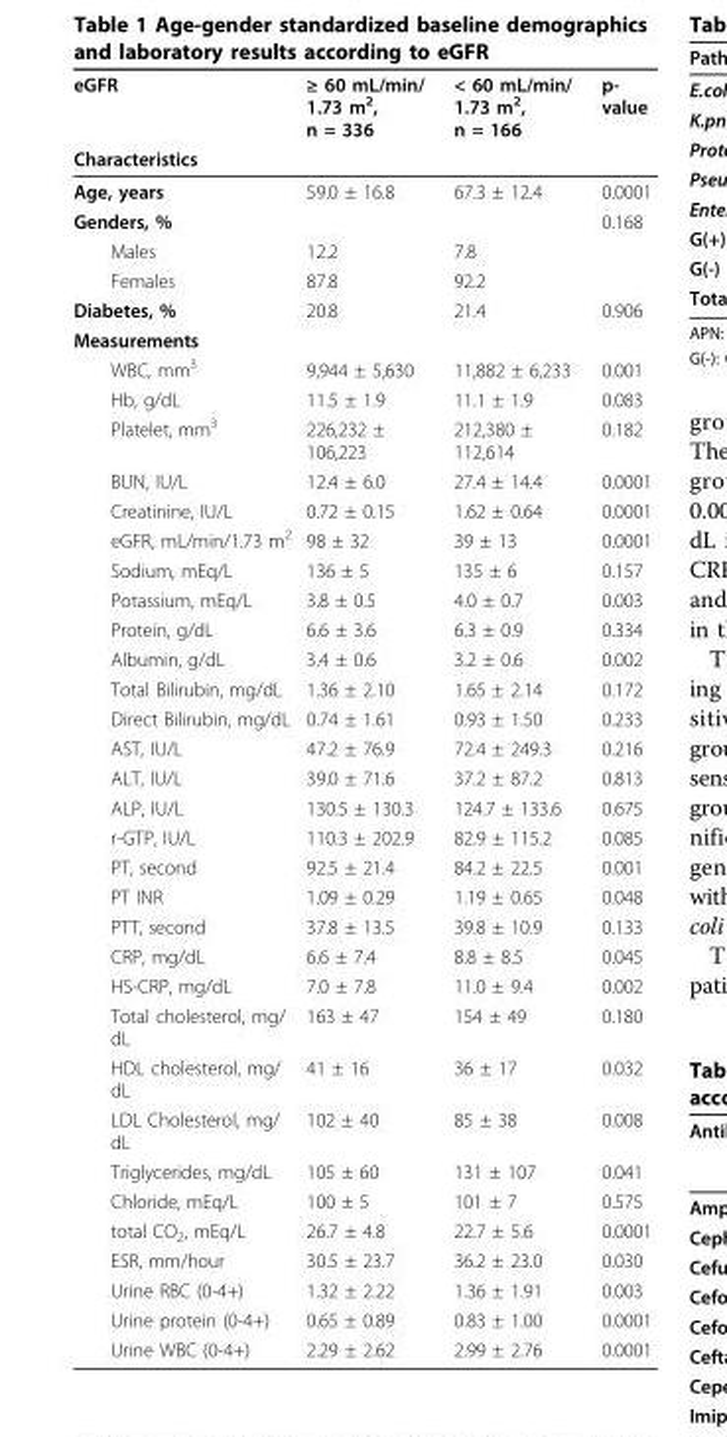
<table><thead><tr><td rowspan="2">eGFR Characteristics</td><td rowspan="2">≥ 60 mL/min/ 1.73 m<sup>2</sup>, n = 336</td><td rowspan="2">&lt; 60 mL/min/ 1.73 m<sup>2</sup>, n = 166</td><td rowspan="2">p- value</td></tr><tr></tr></thead><tbody><tr><td>Age, years</td><td>59.0 ± 16.8</td><td>67.3 ± 12.4</td><td>0.0001</td></tr><tr><td>Genders, %</td><td></td><td></td><td>0.168</td></tr><tr><td>Males</td><td>12.2</td><td>7.8</td><td></td></tr><tr><td>Females</td><td>87.8</td><td>92.2</td><td></td></tr><tr><td>Diabetes, %</td><td>20.8</td><td>21.4</td><td>0.906</td></tr><tr><td colspan="4">Measurements</td></tr><tr><td>WBC, mm<sup>3</sup></td><td>9,944 ± 5,630</td><td>11,882 ± 6,233</td><td>0.001</td></tr><tr><td>Hb, g/dL</td><td>11.5 ± 1.9</td><td>11.1 ± 1.9</td><td>0.083</td></tr><tr><td>Platelet, mm<sup>3</sup></td><td>226,232 ± 106,223</td><td>212,380 ± 112,614</td><td>0.182</td></tr><tr><td>BUN, IU/L</td><td>12.4 ± 6.0</td><td>27.4 ± 14.4</td><td>0.0001</td></tr><tr><td>Creatinine, IU/L</td><td>0.72 ± 0.15</td><td>1.62 ± 0.64</td><td>0.0001</td></tr><tr><td>eGFR, mL/min/1.73 m<sup>2</sup></td><td>98 ± 32</td><td>39 ± 13</td><td>0.0001</td></tr><tr><td>Sodium, mEq/L</td><td>136 ± 5</td><td>135 ± 6</td><td>0.157</td></tr><tr><td>Potassium, mEq/L</td><td>3.8 ± 0.5</td><td>4.0 ± 0.7</td><td>0.003</td></tr><tr><td>Protein, g/dL</td><td>6.6 ± 3.6</td><td>6.3 ± 0.9</td><td>0.334</td></tr><tr><td>Albumin, g/dL</td><td>3.4 ± 0.6</td><td>3.2 ± 0.6</td><td>0.002</td></tr><tr><td>Total Bilirubin, mg/dL</td><td>1.36 ± 2.10</td><td>1.65 ± 2.14</td><td>0.172</td></tr><tr><td>Direct Bilirubin, mg/dL</td><td>0.74 ± 1.61</td><td>0.93 ± 1.50</td><td>0.233</td></tr><tr><td>AST, IU/L</td><td>47.2 ± 76.9</td><td>72.4 ± 249.3</td><td>0.216</td></tr><tr><td>ALT, IU/L</td><td>39.0 ± 71.6</td><td>37.2 ± 87.2</td><td>0.813</td></tr><tr><td>ALP, IU/L</td><td>130.5 ± 130.3</td><td>124.7 ± 133.6</td><td>0.675</td></tr><tr><td>r-GTP, IU/L</td><td>110.3 ± 202.9</td><td>82.9 ± 115.2</td><td>0.085</td></tr><tr><td>PT, second</td><td>92.5 ± 21.4</td><td>84.2 ± 22.5</td><td>0.001</td></tr><tr><td>PT INR</td><td>1.09 ± 0.29</td><td>1.19 ± 0.65</td><td>0.048</td></tr><tr><td>PTT, second</td><td>37.8 ± 13.5</td><td>39.8 ± 10.9</td><td>0.133</td></tr><tr><td>CRP, mg/dL</td><td>6.6 ± 7.4</td><td>8.8 ± 8.5</td><td>0.045</td></tr><tr><td>HS-CRP, mg/dL</td><td>7.0 ± 7.8</td><td>11.0 ± 9.4</td><td>0.002</td></tr><tr><td>Total cholesterol, mg/ dL</td><td>163 ± 47</td><td>154 ± 49</td><td>0.180</td></tr><tr><td>HDL cholesterol, mg/ dL</td><td>41 ± 16</td><td>36 ± 17</td><td>0.032</td></tr><tr><td>LDL Cholesterol, mg/ dL</td><td>102 ± 40</td><td>85 ± 38</td><td>0.008</td></tr><tr><td>Triglycerides, mg/dL</td><td>105 ± 60</td><td>131 ± 107</td><td>0.041</td></tr><tr><td>Chloride, mEq/L</td><td>100 ± 5</td><td>101 ± 7</td><td>0.575</td></tr><tr><td>total CO<sub>2</sub>, mEq/L</td><td>26.7 ± 4.8</td><td>22.7 ± 5.6</td><td>0.0001</td></tr><tr><td>ESR, mm/hour</td><td>30.5 ± 23.7</td><td>36.2 ± 23.0</td><td>0.030</td></tr><tr><td>Urine RBC (0-4+)</td><td>1.32 ± 2.22</td><td>1.36 ± 1.91</td><td>0.003</td></tr><tr><td>Urine protein (0-4+)</td><td>0.65 ± 0.89</td><td>0.83 ± 1.00</td><td>0.0001</td></tr><tr><td>Urine WBC (0-4+)</td><td>2.29 ± 2.62</td><td>2.99 ± 2.76</td><td>0.0001</td></tr></tbody></table>